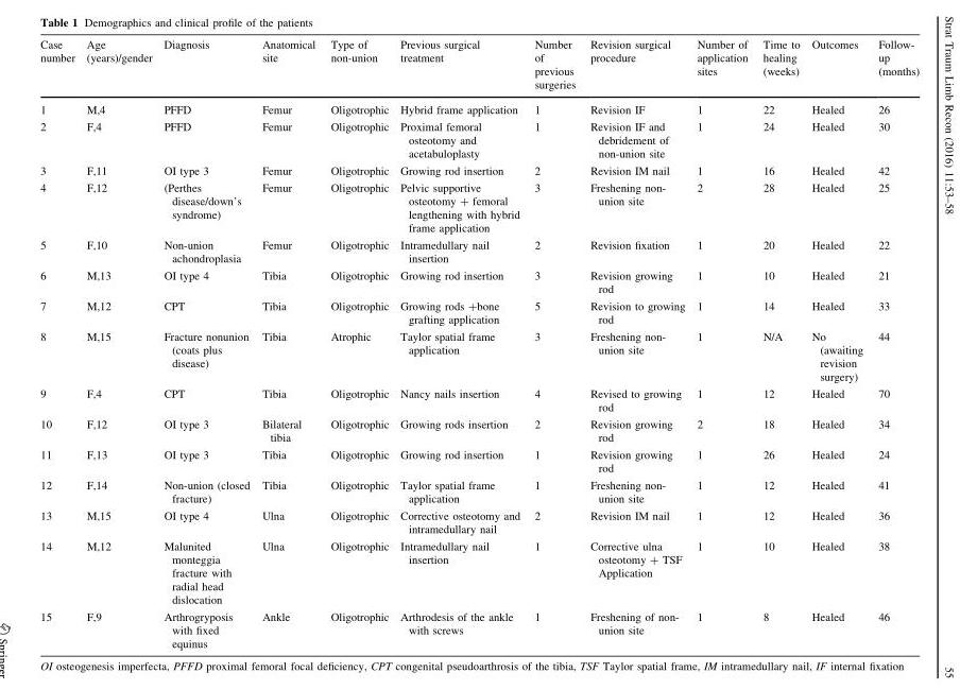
<table><thead><tr><td>Case number</td><td>Age (years)/gender</td><td>Diagnosis</td><td>Anatomical site</td><td>Type of non-union</td><td>Previous surgical treatment</td><td>Number of previous surgeries</td><td>Revision surgical procedure</td><td>Number of application sites</td><td>Time to healing (weeks)</td><td>Outcomes</td><td>Follow- up (months)</td></tr></thead><tbody><tr><td>1</td><td>M,4</td><td>PFFD</td><td>Femur</td><td>Oligotrophic</td><td>Hybrid frame application</td><td>1</td><td>Revision IF</td><td>1</td><td>22</td><td>Healed</td><td>26</td></tr><tr><td>2</td><td>F,4</td><td>PFFD</td><td>Femur</td><td>Oligotrophic</td><td>Proximal femoral osteotomy and acetabuloplasty</td><td>1</td><td>Revision IF and debridement of non-union site</td><td>1</td><td>24</td><td>Healed</td><td>30</td></tr><tr><td>3</td><td>F,11</td><td>OI type 3</td><td>Femur</td><td>Oligotrophic</td><td>Growing rod insertion</td><td>2</td><td>Revision IM nail</td><td>1</td><td>16</td><td>Healed</td><td>42</td></tr><tr><td>4</td><td>F,12</td><td>(Perthes disease/down’s syndrome)</td><td>Femur</td><td>Oligotrophic</td><td>Pelvic supportive osteotomy + femoral lengthening with hybrid frame application</td><td>3</td><td>Freshening non- union site</td><td>2</td><td>28</td><td>Healed</td><td>25</td></tr><tr><td>5</td><td>F,10</td><td>Non-union achondroplasia</td><td>Femur</td><td>Oligotrophic</td><td>Intramedullary nail insertion</td><td>2</td><td>Revision fixation</td><td>1</td><td>20</td><td>Healed</td><td>22</td></tr><tr><td>6</td><td>M,13</td><td>OI type 4</td><td>Tibia</td><td>Oligotrophic</td><td>Growing rod insertion</td><td>3</td><td>Revision growing rod</td><td>1</td><td>10</td><td>Healed</td><td>21</td></tr><tr><td>7</td><td>M,12</td><td>CPT</td><td>Tibia</td><td>Oligotrophic</td><td>Growing rods +bone grafting application</td><td>5</td><td>Revision to growing rod</td><td>1</td><td>14</td><td>Healed</td><td>33</td></tr><tr><td>8</td><td>M,15</td><td>Fracture nonunion (coats plus disease)</td><td>Tibia</td><td>Atrophic</td><td>Taylor spatial frame application</td><td>3</td><td>Freshening non- union site</td><td>1</td><td>N/A</td><td>No (awaiting revision surgery)</td><td>44</td></tr><tr><td>9</td><td>F,4</td><td>CPT</td><td>Tibia</td><td>Oligotrophic</td><td>Nancy nails insertion</td><td>4</td><td>Revised to growing rod</td><td>1</td><td>12</td><td>Healed</td><td>70</td></tr><tr><td>10</td><td>F,12</td><td>OI type 3</td><td>Bilateral tibia</td><td>Oligotrophic</td><td>Growing rods insertion</td><td>2</td><td>Revision growing rod</td><td>2</td><td>18</td><td>Healed</td><td>34</td></tr><tr><td>11</td><td>F,13</td><td>OI type 3</td><td>Tibia</td><td>Oligotrophic</td><td>Growing rod insertion</td><td>1</td><td>Revision growing rod</td><td>1</td><td>26</td><td>Healed</td><td>24</td></tr><tr><td>12</td><td>F,14</td><td>Non-union (closed fracture)</td><td>Tibia</td><td>Oligotrophic</td><td>Taylor spatial frame application</td><td>1</td><td>Freshening non- union site</td><td>1</td><td>12</td><td>Healed</td><td>41</td></tr><tr><td>13</td><td>M,15</td><td>OI type 4</td><td>Ulna</td><td>Oligotrophic</td><td>Corrective osteotomy and intramedullary nail</td><td>2</td><td>Revision IM nail</td><td>1</td><td>12</td><td>Healed</td><td>36</td></tr><tr><td>14</td><td>M,12</td><td>Malunited monteggia fracture with radial head dislocation</td><td>Ulna</td><td>Oligotrophic</td><td>Intramedullary nail insertion</td><td>1</td><td>Corrective ulna osteotomy + TSF Application</td><td>1</td><td>10</td><td>Healed</td><td>38</td></tr><tr><td>15</td><td>F,9</td><td>Arthrogryposis with fixed equinus</td><td>Ankle</td><td>Oligotrophic</td><td>Arthrodesis of the ankle with screws</td><td>1</td><td>Freshening of non- union site</td><td>1</td><td>8</td><td>Healed</td><td>46</td></tr></tbody></table>